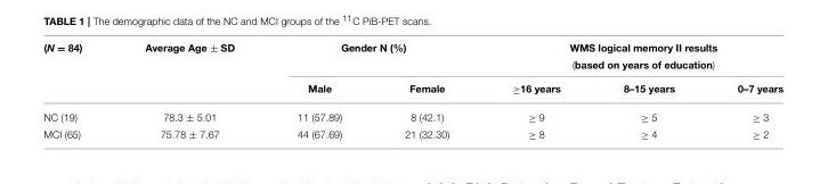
<table><thead><tr><td rowspan="2">(N = 84)</td><td rowspan="2">Average Age ± SD</td><td colspan="2">Gender N (%)</td><td colspan="3">WMS logical memory II results (based on years of education)</td></tr><tr><td>Male</td><td>Female</td><td>≥16 years</td><td>8–15 years</td><td>0–7 years</td></tr></thead><tbody><tr><td>NC (19)</td><td>78.3 ± 5.01</td><td>11 (57.89)</td><td>8 (42.1)</td><td>≥ 9</td><td>≥ 5</td><td>≥ 3</td></tr><tr><td>MCI (65)</td><td>75.78 ± 7.67</td><td>44 (67.69)</td><td>21 (32.30)</td><td>≥ 8</td><td>≥ 4</td><td>≥ 2</td></tr></tbody></table>